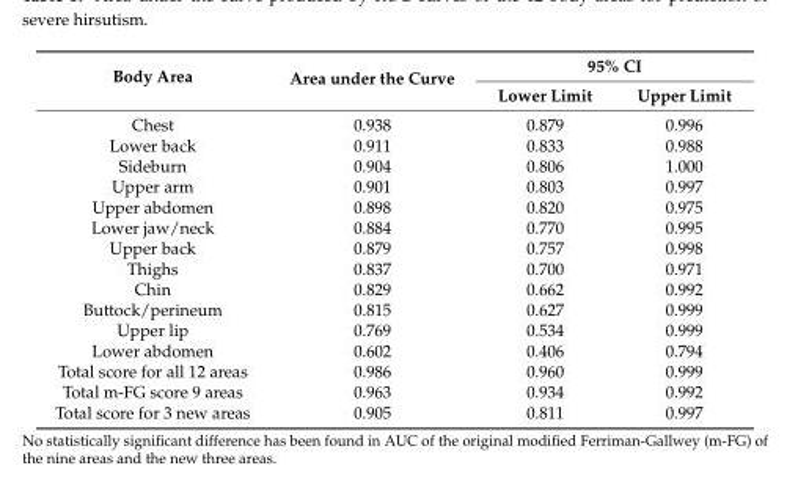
<table><thead><tr><td rowspan="2">Body Area</td><td rowspan="2">Area under the Curve</td><td colspan="2">95% CI</td></tr><tr><td>Lower Limit</td><td>Upper Limit</td></tr></thead><tbody><tr><td>Chest</td><td>0.938</td><td>0.879</td><td>0.996</td></tr><tr><td>Lower back</td><td>0.911</td><td>0.833</td><td>0.988</td></tr><tr><td>Sideburn</td><td>0.904</td><td>0.806</td><td>1.000</td></tr><tr><td>Upper arm</td><td>0.901</td><td>0.803</td><td>0.997</td></tr><tr><td>Upper abdomen</td><td>0.898</td><td>0.820</td><td>0.975</td></tr><tr><td>Lower jaw/neck</td><td>0.884</td><td>0.770</td><td>0.995</td></tr><tr><td>Upper back</td><td>0.879</td><td>0.757</td><td>0.998</td></tr><tr><td>Thighs</td><td>0.837</td><td>0.700</td><td>0.971</td></tr><tr><td>Chin</td><td>0.829</td><td>0.662</td><td>0.992</td></tr><tr><td>Buttock/perineum</td><td>0.815</td><td>0.627</td><td>0.999</td></tr><tr><td>Upper lip</td><td>0.769</td><td>0.534</td><td>0.999</td></tr><tr><td>Lower abdomen</td><td>0.602</td><td>0.406</td><td>0.794</td></tr><tr><td>Total score for all 12 areas</td><td>0.986</td><td>0.960</td><td>0.999</td></tr><tr><td>Total m-FG score 9 areas</td><td>0.963</td><td>0.934</td><td>0.992</td></tr><tr><td>Total score for 3 new areas</td><td>0.905</td><td>0.811</td><td>0.997</td></tr></tbody></table>